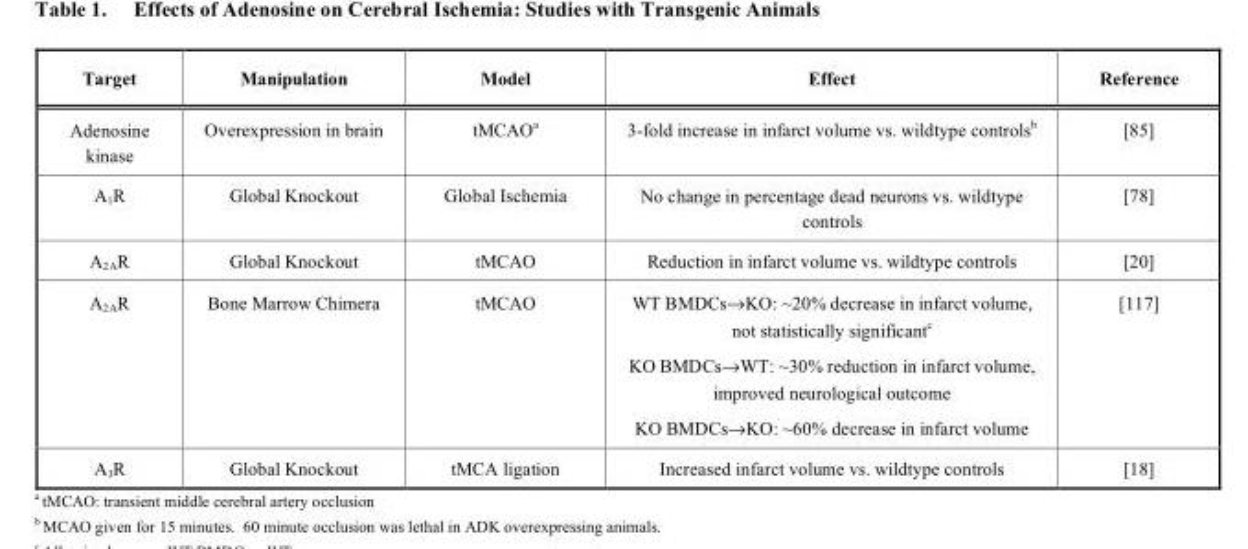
<table><thead><tr><td>Target</td><td>Manipulation</td><td>Model</td><td>Effect</td><td>Reference</td></tr></thead><tbody><tr><td>Adenosine kinase</td><td>Overexpression in brain</td><td>tMCAO<sup>a</sup></td><td>3-fold increase in infarct volume vs. wildtype controls<sup>b</sup></td><td>[85]</td></tr><tr><td>A<sub>1</sub>R</td><td>Global Knockout</td><td>Global Ischemia</td><td>No change in percentage dead neurons vs. wildtype controls</td><td>[78]</td></tr><tr><td>A<sub>2A</sub>R</td><td>Global Knockout</td><td>tMCAO</td><td>Reduction in infarct volume vs. wildtype controls</td><td>[20]</td></tr><tr><td>A<sub>2A</sub>R</td><td>Bone Marrow Chimera</td><td>tMCAO</td><td>WT BMDCs→KO: ~20% decrease in infarct volume, not statistically significant<sup>c</sup> KO BMDCs→WT: ~30% reduction in infarct volume, improved neurological outcome KO BMDCs→KO: ~60% decrease in infarct volume</td><td>[117]</td></tr><tr><td>A<sub>3</sub>R</td><td>Global Knockout</td><td>tMCA ligation</td><td>Increased infarct volume vs. wildtype controls</td><td>[18]</td></tr></tbody></table>